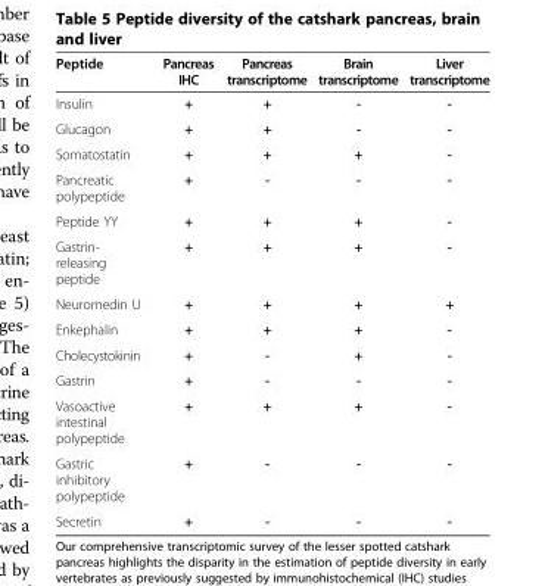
<table><thead><tr><td>Peptide</td><td>Pancreas IHC</td><td>Pancreas transcriptome</td><td>Brain transcriptome</td><td>Liver transcriptome</td></tr></thead><tbody><tr><td>Insulin</td><td>+</td><td>+</td><td>-</td><td>-</td></tr><tr><td>Glucagon</td><td>+</td><td>+</td><td>-</td><td>-</td></tr><tr><td>Somatostatin</td><td>+</td><td>+</td><td>+</td><td>-</td></tr><tr><td>Pancreatic polypeptide</td><td>+</td><td>-</td><td>-</td><td>-</td></tr><tr><td>Peptide YY</td><td>+</td><td>+</td><td>+</td><td>-</td></tr><tr><td>Gastrin- releasing peptide</td><td>+</td><td>+</td><td>+</td><td>-</td></tr><tr><td>Neuromedin U</td><td>+</td><td>+</td><td>+</td><td>+</td></tr><tr><td>Enkephalin</td><td>+</td><td>+</td><td>+</td><td>-</td></tr><tr><td>Cholecystokinin</td><td>+</td><td>-</td><td>+</td><td>-</td></tr><tr><td>Gastrin</td><td>+</td><td>-</td><td>-</td><td>-</td></tr><tr><td>Vasoactive intestinal polypeptide</td><td>+</td><td>+</td><td>+</td><td>-</td></tr><tr><td>Gastric inhibitory polypeptide</td><td>+</td><td>-</td><td>-</td><td>-</td></tr><tr><td>Secretin</td><td>+</td><td>-</td><td>-</td><td>-</td></tr></tbody></table>